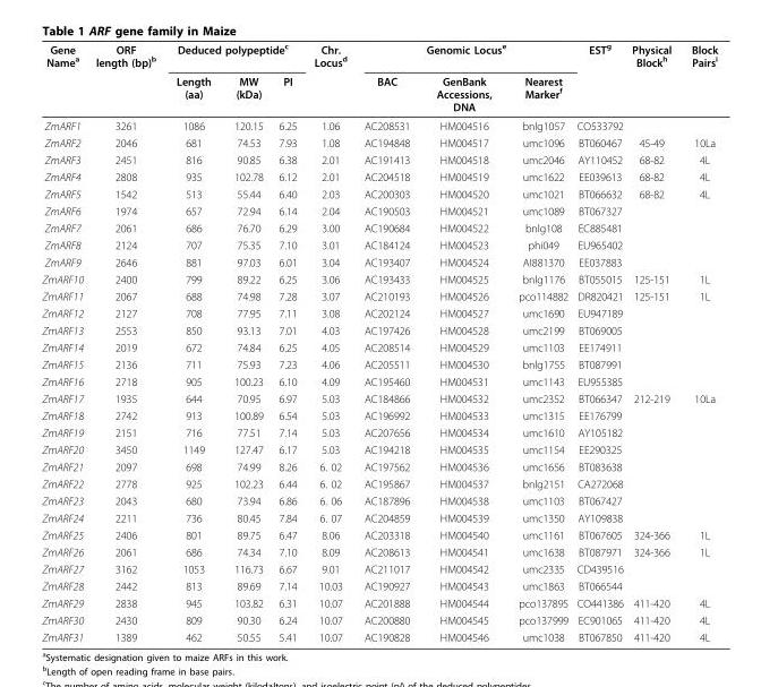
<table><thead><tr><td rowspan="2">Gene Name<sup>a</sup></td><td rowspan="2">ORF length (bp)<sup>b</sup></td><td colspan="3">Deduced polypeptide<sup>c</sup></td><td rowspan="2">Chr. Locus<sup>d</sup></td><td colspan="3">Genomic Locus<sup>e</sup></td><td rowspan="2">EST<sup>g</sup></td><td rowspan="2">Physical Block<sup>h</sup></td><td rowspan="2">Block Pairs<sup>i</sup></td></tr><tr><td>Length (aa)</td><td>MW (kDa)</td><td>PI</td><td>BAC</td><td>GenBank Accessions, DNA</td><td>Nearest Marker<sup>f</sup></td></tr></thead><tbody><tr><td>ZmARF1</td><td>3261</td><td>1086</td><td>120.15</td><td>6.25</td><td>1.06</td><td>AC208531</td><td>HM004516</td><td>bnlg1057</td><td>CO533792</td><td></td><td></td></tr><tr><td>ZmARF2</td><td>2046</td><td>681</td><td>74.53</td><td>7.93</td><td>1.08</td><td>AC194848</td><td>HM004517</td><td>umc1096</td><td>BT060467</td><td>45-49</td><td>10La</td></tr><tr><td>ZmARF3</td><td>2451</td><td>816</td><td>90.85</td><td>6.38</td><td>2.01</td><td>AC191413</td><td>HM004518</td><td>umc2046</td><td>AY110452</td><td>68-82</td><td>4L</td></tr><tr><td>ZmARF4</td><td>2808</td><td>935</td><td>102.78</td><td>6.12</td><td>2.01</td><td>AC204518</td><td>HM004519</td><td>umc1622</td><td>EE039613</td><td>68-82</td><td>4L</td></tr><tr><td>ZmARF5</td><td>1542</td><td>513</td><td>55.44</td><td>6.40</td><td>2.03</td><td>AC200303</td><td>HM004520</td><td>umc1021</td><td>BT066632</td><td>68-82</td><td>4L</td></tr><tr><td>ZmARF6</td><td>1974</td><td>657</td><td>72.94</td><td>6.14</td><td>2.04</td><td>AC190503</td><td>HM004521</td><td>umc1089</td><td>BT067327</td><td></td><td></td></tr><tr><td>ZmARF7</td><td>2061</td><td>686</td><td>76.70</td><td>6.29</td><td>3.00</td><td>AC190684</td><td>HM004522</td><td>bnlg108</td><td>EC885481</td><td></td><td></td></tr><tr><td>ZmARF8</td><td>2124</td><td>707</td><td>75.35</td><td>7.10</td><td>3.01</td><td>AC184124</td><td>HM004523</td><td>phi049</td><td>EU965402</td><td></td><td></td></tr><tr><td>ZmARF9</td><td>2646</td><td>881</td><td>97.03</td><td>6.01</td><td>3.04</td><td>AC193407</td><td>HM004524</td><td>AI881370</td><td>EE037883</td><td></td><td></td></tr><tr><td>ZmARF10</td><td>2400</td><td>799</td><td>89.22</td><td>6.25</td><td>3.06</td><td>AC193433</td><td>HM004525</td><td>bnlg1176</td><td>BT055015</td><td>125-151</td><td>1L</td></tr><tr><td>ZmARF11</td><td>2067</td><td>688</td><td>74.98</td><td>7.28</td><td>3.07</td><td>AC210193</td><td>HM004526</td><td>pco114882</td><td>DR820421</td><td>125-151</td><td>1L</td></tr><tr><td>ZmARF12</td><td>2127</td><td>708</td><td>77.95</td><td>7.11</td><td>3.08</td><td>AC202124</td><td>HM004527</td><td>umc1690</td><td>EU947189</td><td></td><td></td></tr><tr><td>ZmARF13</td><td>2553</td><td>850</td><td>93.13</td><td>7.01</td><td>4.03</td><td>AC197426</td><td>HM004528</td><td>umc2199</td><td>BT069005</td><td></td><td></td></tr><tr><td>ZmARF14</td><td>2019</td><td>672</td><td>74.84</td><td>6.25</td><td>4.05</td><td>AC208514</td><td>HM004529</td><td>umc1103</td><td>EE174911</td><td></td><td></td></tr><tr><td>ZmARF15</td><td>2136</td><td>711</td><td>75.93</td><td>7.23</td><td>4.06</td><td>AC205511</td><td>HM004530</td><td>bnlg1755</td><td>BT087991</td><td></td><td></td></tr><tr><td>ZmARF16</td><td>2718</td><td>905</td><td>100.23</td><td>6.10</td><td>4.09</td><td>AC195460</td><td>HM004531</td><td>umc1143</td><td>EU955385</td><td></td><td></td></tr><tr><td>ZmARF17</td><td>1935</td><td>644</td><td>70.95</td><td>6.97</td><td>5.03</td><td>AC184866</td><td>HM004532</td><td>umc2352</td><td>BT066347</td><td>212-219</td><td>10La</td></tr><tr><td>ZmARF18</td><td>2742</td><td>913</td><td>100.89</td><td>6.54</td><td>5.03</td><td>AC196992</td><td>HM004533</td><td>umc1315</td><td>EE176799</td><td></td><td></td></tr><tr><td>ZmARF19</td><td>2151</td><td>716</td><td>77.51</td><td>7.14</td><td>5.03</td><td>AC207656</td><td>HM004534</td><td>umc1610</td><td>AY105182</td><td></td><td></td></tr><tr><td>ZmARF20</td><td>3450</td><td>1149</td><td>127.47</td><td>6.17</td><td>5.03</td><td>AC194218</td><td>HM004535</td><td>umc1154</td><td>EE290325</td><td></td><td></td></tr><tr><td>ZmARF21</td><td>2097</td><td>698</td><td>74.99</td><td>8.26</td><td>6. 02</td><td>AC197562</td><td>HM004536</td><td>umc1656</td><td>BT083638</td><td></td><td></td></tr><tr><td>ZmARF22</td><td>2778</td><td>925</td><td>102.23</td><td>6.44</td><td>6. 02</td><td>AC195867</td><td>HM004537</td><td>bnlg2151</td><td>CA272068</td><td></td><td></td></tr><tr><td>ZmARF23</td><td>2043</td><td>680</td><td>73.94</td><td>6.86</td><td>6. 06</td><td>AC187896</td><td>HM004538</td><td>umc1103</td><td>BT067427</td><td></td><td></td></tr><tr><td>ZmARF24</td><td>2211</td><td>736</td><td>80.45</td><td>7.84</td><td>6. 07</td><td>AC204859</td><td>HM004539</td><td>umc1350</td><td>AY109838</td><td></td><td></td></tr><tr><td>ZmARF25</td><td>2406</td><td>801</td><td>89.75</td><td>6.47</td><td>8.06</td><td>AC203318</td><td>HM004540</td><td>umc1161</td><td>BT067605</td><td>324-366</td><td>1L</td></tr><tr><td>ZmARF26</td><td>2061</td><td>686</td><td>74.34</td><td>7.10</td><td>8.09</td><td>AC208613</td><td>HM004541</td><td>umc1638</td><td>BT087971</td><td>324-366</td><td>1L</td></tr><tr><td>ZmARF27</td><td>3162</td><td>1053</td><td>116.73</td><td>6.67</td><td>9.01</td><td>AC211017</td><td>HM004542</td><td>umc2335</td><td>CD439516</td><td></td><td></td></tr><tr><td>ZmARF28</td><td>2442</td><td>813</td><td>89.69</td><td>7.14</td><td>10.03</td><td>AC190927</td><td>HM004543</td><td>umc1863</td><td>BT066544</td><td></td><td></td></tr><tr><td>ZmARF29</td><td>2838</td><td>945</td><td>103.82</td><td>6.31</td><td>10.07</td><td>AC201888</td><td>HM004544</td><td>pco137895</td><td>CO441386</td><td>411-420</td><td>4L</td></tr><tr><td>ZmARF30</td><td>2430</td><td>809</td><td>90.30</td><td>6.24</td><td>10.07</td><td>AC200880</td><td>HM004545</td><td>pco137999</td><td>EC901065</td><td>411-420</td><td>4L</td></tr><tr><td>ZmARF31</td><td>1389</td><td>462</td><td>50.55</td><td>5.41</td><td>10.07</td><td>AC190828</td><td>HM004546</td><td>umc1038</td><td>BT067850</td><td>411-420</td><td>4L</td></tr></tbody></table>